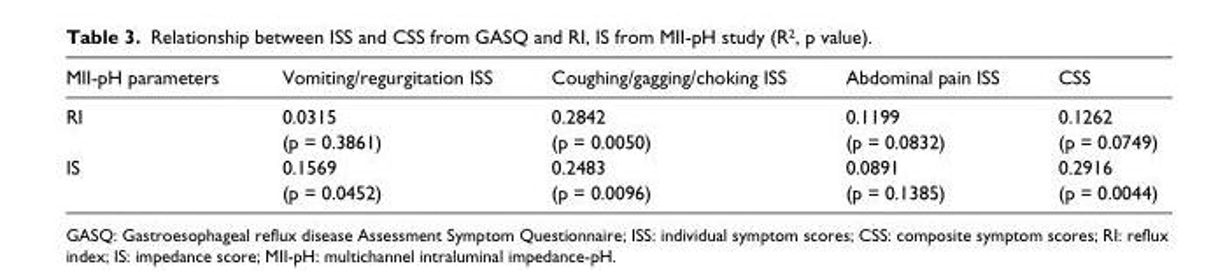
<table><thead><tr><td>MII-pH parameters</td><td>Vomiting/regurgitation ISS</td><td>Coughing/gagging/choking ISS</td><td>Abdominal pain ISS</td><td>CSS</td></tr></thead><tbody><tr><td rowspan="2">RI</td><td>0.0315</td><td>0.2842</td><td>0.1199</td><td>0.1262</td></tr><tr><td>(p = 0.3861)</td><td>(p = 0.0050)</td><td>(p = 0.0832)</td><td>(p = 0.0749)</td></tr><tr><td rowspan="2">IS</td><td>0.1569</td><td>0.2483</td><td>0.0891</td><td>0.2916</td></tr><tr><td>(p = 0.0452)</td><td>(p = 0.0096)</td><td>(p = 0.1385)</td><td>(p = 0.0044)</td></tr></tbody></table>